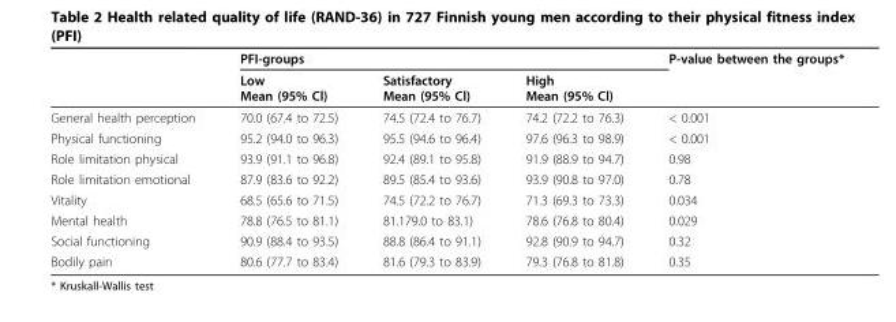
<table><thead><tr><td rowspan="2"></td><td colspan="3">PFI-groups</td><td rowspan="2">P-value between the groups*</td></tr><tr><td>Low Mean (95% Cl)</td><td>Satisfactory Mean (95% Cl)</td><td>High Mean (95% Cl)</td></tr></thead><tbody><tr><td>General health perception</td><td>70.0 (67.4 to 72.5)</td><td>74.5 (72.4 to 76.7)</td><td>74.2 (72.2 to 76.3)</td><td>&lt; 0.001</td></tr><tr><td>Physical functioning</td><td>95.2 (94.0 to 96.3)</td><td>95.5 (94.6 to 96.4)</td><td>97.6 (96.3 to 98.9)</td><td>&lt; 0.001</td></tr><tr><td>Role limitation physical</td><td>93.9 (91.1 to 96.8)</td><td>92.4 (89.1 to 95.8)</td><td>91.9 (88.9 to 94.7)</td><td>0.98</td></tr><tr><td>Role limitation emotional</td><td>87.9 (83.6 to 92.2)</td><td>89.5 (85.4 to 93.6)</td><td>93.9 (90.8 to 97.0)</td><td>0.78</td></tr><tr><td>Vitality</td><td>68.5 (65.6 to 71.5)</td><td>74.5 (72.2 to 76.7)</td><td>71.3 (69.3 to 73.3)</td><td>0.034</td></tr><tr><td>Mental health</td><td>78.8 (76.5 to 81.1)</td><td>81.179.0 to 83.1)</td><td>78.6 (76.8 to 80.4)</td><td>0.029</td></tr><tr><td>Social functioning</td><td>90.9 (88.4 to 93.5)</td><td>88.8 (86.4 to 91.1)</td><td>92.8 (90.9 to 94.7)</td><td>0.32</td></tr><tr><td>Bodily pain</td><td>80.6 (77.7 to 83.4)</td><td>81.6 (79.3 to 83.9)</td><td>79.3 (76.8 to 81.8)</td><td>0.35</td></tr></tbody></table>